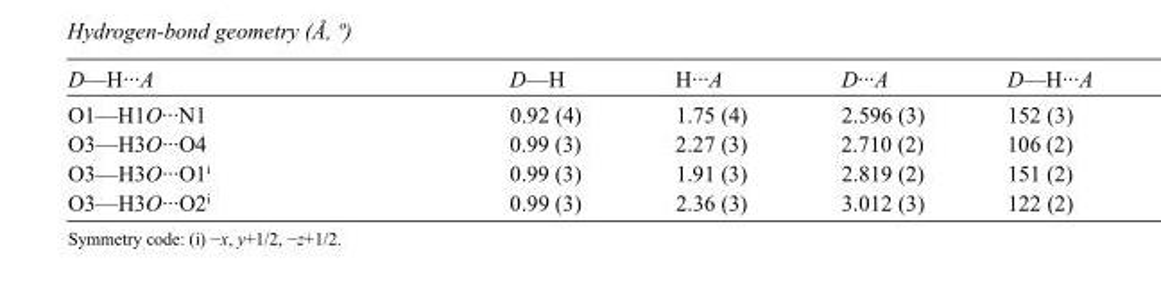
<table><tbody><tr><td>D—H···A</td><td>D—H</td><td>H···A</td><td>D···A</td><td>D—H···A</td></tr><tr><td>O1—H1O···N1</td><td>0.92 (4)</td><td>1.75 (4)</td><td>2.596 (3)</td><td>152 (3)</td></tr><tr><td>O3—H3O···O4</td><td>0.99 (3)</td><td>2.27 (3)</td><td>2.710 (2)</td><td>106 (2)</td></tr><tr><td>O3—H3O···O1<sup>i</sup></td><td>0.99 (3)</td><td>1.91 (3)</td><td>2.819 (2)</td><td>151 (2)</td></tr><tr><td>O3—H3O···O2<sup>i</sup></td><td>0.99 (3)</td><td>2.36 (3)</td><td>3.012 (3)</td><td>122 (2)</td></tr></tbody></table>